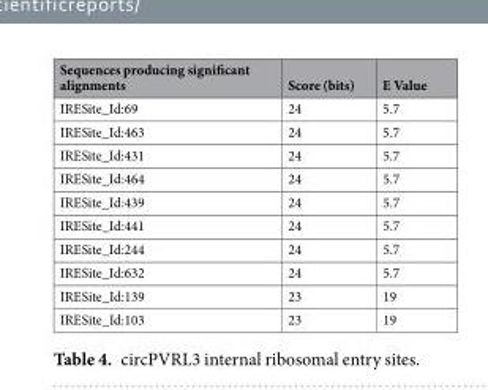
<table><thead><tr><td>Sequences producing significant alignments</td><td>Score (bits)</td><td>E Value</td></tr></thead><tbody><tr><td>IRESite_Id:69</td><td>24</td><td>5.7</td></tr><tr><td>IRESite_Id:463</td><td>24</td><td>5.7</td></tr><tr><td>IRESite_Id:431</td><td>24</td><td>5.7</td></tr><tr><td>IRESite_Id:464</td><td>24</td><td>5.7</td></tr><tr><td>IRESite_Id:439</td><td>24</td><td>5.7</td></tr><tr><td>IRESite_Id:441</td><td>24</td><td>5.7</td></tr><tr><td>IRESite_Id:244</td><td>24</td><td>5.7</td></tr><tr><td>IRESite_Id:632</td><td>24</td><td>5.7</td></tr><tr><td>IRESite_Id:139</td><td>23</td><td>19</td></tr><tr><td>IRESite_Id:103</td><td>23</td><td>19</td></tr></tbody></table>